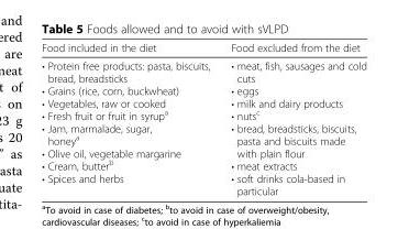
<table><thead><tr><td>Food included in the diet</td><td>Food excluded from the diet</td></tr></thead><tbody><tr><td>• Protein free products: pasta, biscuits, bread, breadsticks • Grains (rice, corn, buckwheat) • Vegetables, raw or cooked • Fresh fruit or fruit in syrup<sup>a</sup> • Jam, marmalade, sugar, honey<sup>a</sup> • Olive oil, vegetable margarine • Cream, butter<sup>b</sup> • Spices and herbs</td><td>• meat, fish, sausages and cold cuts • eggs • milk and dairy products • nuts<sup>c</sup> • bread, breadsticks, biscuits, pasta and biscuits made with plain flour • meat extracts • soft drinks cola-based in particular</td></tr></tbody></table>